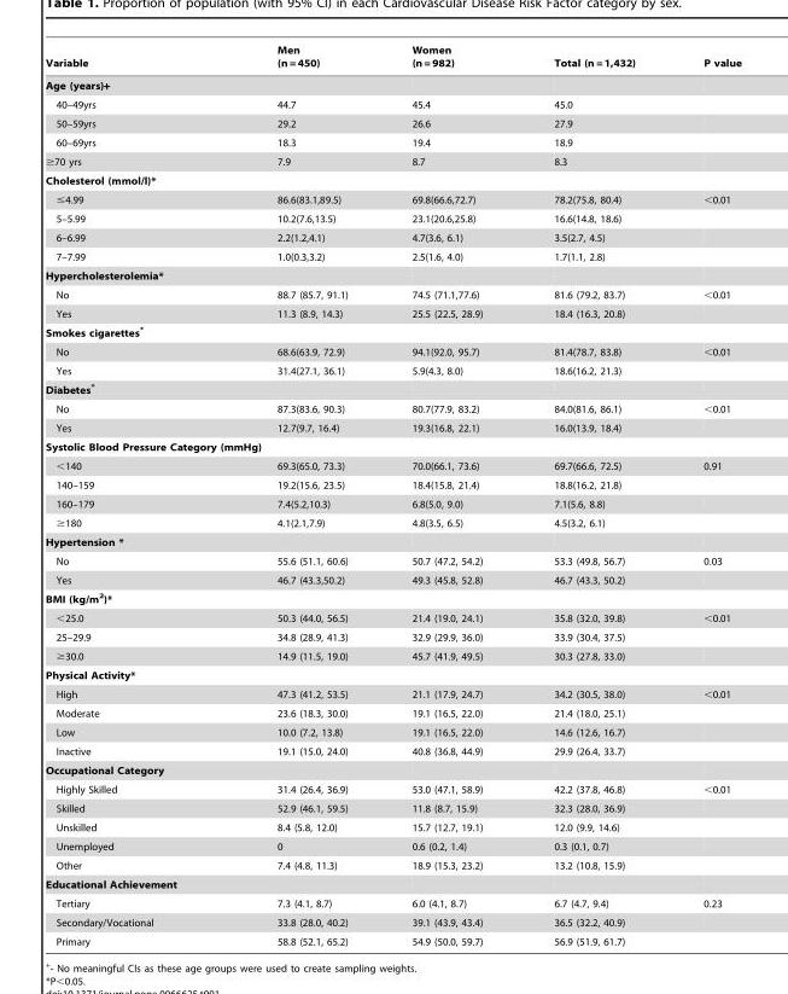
<table><thead><tr><td>Variable</td><td>Men (n = 450)</td><td>Women (n = 982)</td><td>Total (n = 1,432)</td><td>P value</td></tr></thead><tbody><tr><td colspan="5">Age (years)+</td></tr><tr><td>40–49yrs</td><td>44.7</td><td>45.4</td><td>45.0</td><td></td></tr><tr><td>50–59yrs</td><td>29.2</td><td>26.6</td><td>27.9</td><td></td></tr><tr><td>60–69yrs</td><td>18.3</td><td>19.4</td><td>18.9</td><td></td></tr><tr><td>≥70 yrs</td><td>7.9</td><td>8.7</td><td>8.3</td><td></td></tr><tr><td colspan="5">Cholesterol (mmol/l)*</td></tr><tr><td>≤4.99</td><td>86.6(83.1,89.5)</td><td>69.8(66.6,72.7)</td><td>78.2(75.8, 80.4)</td><td>&lt;0.01</td></tr><tr><td>5–5.99</td><td>10.2(7.6,13.5)</td><td>23.1(20.6,25.8)</td><td>16.6(14.8, 18.6)</td><td></td></tr><tr><td>6–6.99</td><td>2.2(1.2,4.1)</td><td>4.7(3.6, 6.1)</td><td>3.5(2.7, 4.5)</td><td></td></tr><tr><td>7–7.99</td><td>1.0(0.3,3.2)</td><td>2.5(1.6, 4.0)</td><td>1.7(1.1, 2.8)</td><td></td></tr><tr><td colspan="5">Hypercholesterolemia*</td></tr><tr><td>No</td><td>88.7 (85.7, 91.1)</td><td>74.5 (71.1,77.6)</td><td>81.6 (79.2, 83.7)</td><td>&lt;0.01</td></tr><tr><td>Yes</td><td>11.3 (8.9, 14.3)</td><td>25.5 (22.5, 28.9)</td><td>18.4 (16.3, 20.8)</td><td></td></tr><tr><td colspan="5">Smokes cigarettes*</td></tr><tr><td>No</td><td>68.6(63.9, 72.9)</td><td>94.1(92.0, 95.7)</td><td>81.4(78.7, 83.8)</td><td>&lt;0.01</td></tr><tr><td>Yes</td><td>31.4(27.1, 36.1)</td><td>5.9(4.3, 8.0)</td><td>18.6(16.2, 21.3)</td><td></td></tr><tr><td colspan="5">Diabetes*</td></tr><tr><td>No</td><td>87.3(83.6, 90.3)</td><td>80.7(77.9, 83.2)</td><td>84.0(81.6, 86.1)</td><td>&lt;0.01</td></tr><tr><td>Yes</td><td>12.7(9.7, 16.4)</td><td>19.3(16.8, 22.1)</td><td>16.0(13.9, 18.4)</td><td></td></tr><tr><td colspan="5">Systolic Blood Pressure Category (mmHg)</td></tr><tr><td>&lt;140</td><td>69.3(65.0, 73.3)</td><td>70.0(66.1, 73.6)</td><td>69.7(66.6, 72.5)</td><td>0.91</td></tr><tr><td>140–159</td><td>19.2(15.6, 23.5)</td><td>18.4(15.8, 21.4)</td><td>18.8(16.2, 21.8)</td><td></td></tr><tr><td>160–179</td><td>7.4(5.2,10.3)</td><td>6.8(5.0, 9.0)</td><td>7.1(5.6, 8.8)</td><td></td></tr><tr><td>≥180</td><td>4.1(2.1,7.9)</td><td>4.8(3.5, 6.5)</td><td>4.5(3.2, 6.1)</td><td></td></tr><tr><td colspan="5">Hypertension *</td></tr><tr><td>No</td><td>55.6 (51.1, 60.6)</td><td>50.7 (47.2, 54.2)</td><td>53.3 (49.8, 56.7)</td><td>0.03</td></tr><tr><td>Yes</td><td>46.7 (43.3,50.2)</td><td>49.3 (45.8, 52.8)</td><td>46.7 (43.3, 50.2)</td><td></td></tr><tr><td colspan="5">BMI (kg/m<sup>2</sup>)*</td></tr><tr><td>&lt;25.0</td><td>50.3 (44.0, 56.5)</td><td>21.4 (19.0, 24.1)</td><td>35.8 (32.0, 39.8)</td><td>&lt;0.01</td></tr><tr><td>25–29.9</td><td>34.8 (28.9, 41.3)</td><td>32.9 (29.9, 36.0)</td><td>33.9 (30.4, 37.5)</td><td></td></tr><tr><td>≥30.0</td><td>14.9 (11.5, 19.0)</td><td>45.7 (41.9, 49.5)</td><td>30.3 (27.8, 33.0)</td><td></td></tr><tr><td colspan="5">Physical Activity*</td></tr><tr><td>High</td><td>47.3 (41.2, 53.5)</td><td>21.1 (17.9, 24.7)</td><td>34.2 (30.5, 38.0)</td><td>&lt;0.01</td></tr><tr><td>Moderate</td><td>23.6 (18.3, 30.0)</td><td>19.1 (16.5, 22.0)</td><td>21.4 (18.0, 25.1)</td><td></td></tr><tr><td>Low</td><td>10.0 (7.2, 13.8)</td><td>19.1 (16.5, 22.0)</td><td>14.6 (12.6, 16.7)</td><td></td></tr><tr><td>Inactive</td><td>19.1 (15.0, 24.0)</td><td>40.8 (36.8, 44.9)</td><td>29.9 (26.4, 33.7)</td><td></td></tr><tr><td colspan="5">Occupational Category</td></tr><tr><td>Highly Skilled</td><td>31.4 (26.4, 36.9)</td><td>53.0 (47.1, 58.9)</td><td>42.2 (37.8, 46.8)</td><td>&lt;0.01</td></tr><tr><td>Skilled</td><td>52.9 (46.1, 59.5)</td><td>11.8 (8.7, 15.9)</td><td>32.3 (28.0, 36.9)</td><td></td></tr><tr><td>Unskilled</td><td>8.4 (5.8, 12.0)</td><td>15.7 (12.7, 19.1)</td><td>12.0 (9.9, 14.6)</td><td></td></tr><tr><td>Unemployed</td><td>0</td><td>0.6 (0.2, 1.4)</td><td>0.3 (0.1, 0.7)</td><td></td></tr><tr><td>Other</td><td>7.4 (4.8, 11.3)</td><td>18.9 (15.3, 23.2)</td><td>13.2 (10.8, 15.9)</td><td></td></tr><tr><td colspan="5">Educational Achievement</td></tr><tr><td>Tertiary</td><td>7.3 (4.1, 8.7)</td><td>6.0 (4.1, 8.7)</td><td>6.7 (4.7, 9.4)</td><td>0.23</td></tr><tr><td>Secondary/Vocational</td><td>33.8 (28.0, 40.2)</td><td>39.1 (43.9, 43.4)</td><td>36.5 (32.2, 40.9)</td><td></td></tr><tr><td>Primary</td><td>58.8 (52.1, 65.2)</td><td>54.9 (50.0, 59.7)</td><td>56.9 (51.9, 61.7)</td><td></td></tr></tbody></table>